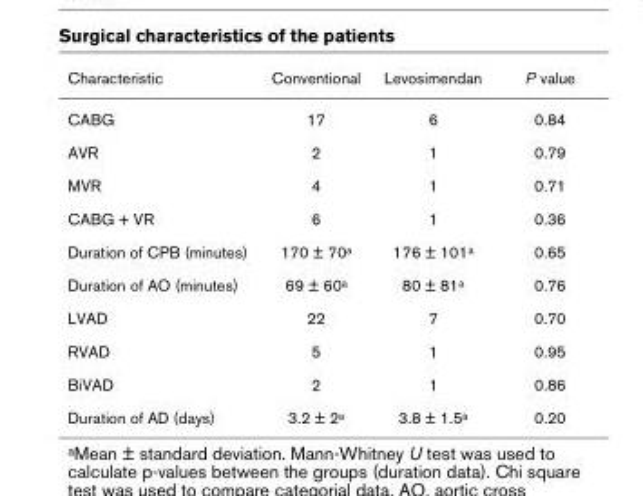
<table><thead><tr><td>Characteristic</td><td>Conventional</td><td>Levosimendan</td><td>P value</td></tr></thead><tbody><tr><td>CABG</td><td>17</td><td>6</td><td>0.84</td></tr><tr><td>AVR</td><td>2</td><td>1</td><td>0.79</td></tr><tr><td>MVR</td><td>4</td><td>1</td><td>0.71</td></tr><tr><td>CABG + VR</td><td>6</td><td>1</td><td>0.36</td></tr><tr><td>Duration of CPB (minutes)</td><td>170 ± 70a</td><td>176 ± 101a</td><td>0.65</td></tr><tr><td>Duration of AO (minutes)</td><td>69 ± 60a</td><td>80 ± 81a</td><td>0.76</td></tr><tr><td>LVAD</td><td>22</td><td>7</td><td>0.70</td></tr><tr><td>RVAD</td><td>5</td><td>1</td><td>0.95</td></tr><tr><td>BiVAD</td><td>2</td><td>1</td><td>0.86</td></tr><tr><td>Duration of AD (days)</td><td>3.2 ± 2a</td><td>3.8 ± 1.5a</td><td>0.20</td></tr></tbody></table>